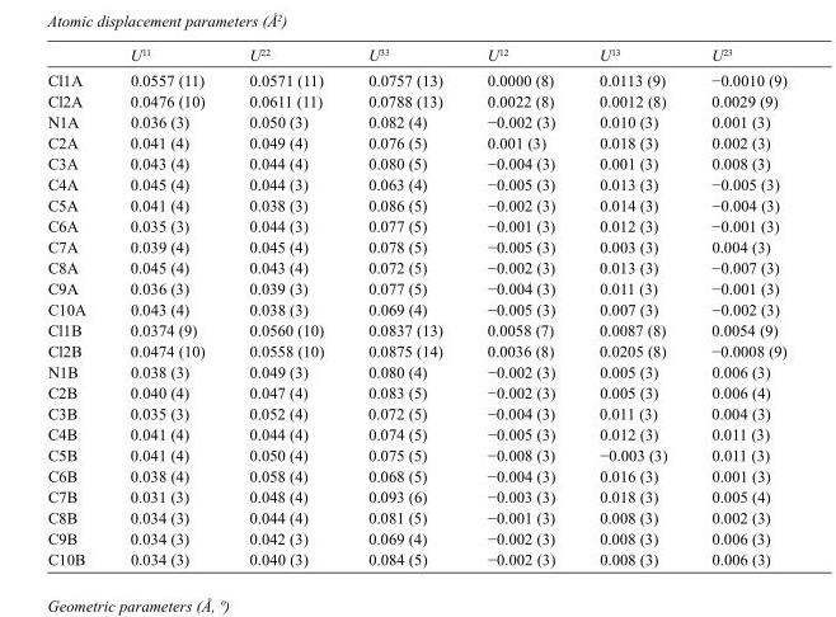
<table><thead><tr><td></td><td>U<sup>11</sup></td><td>U<sup>22</sup></td><td>U<sup>33</sup></td><td>U<sup>12</sup></td><td>U<sup>13</sup></td><td>U<sup>23</sup></td></tr></thead><tbody><tr><td>Cl1A</td><td>0.0557 (11)</td><td>0.0571 (11)</td><td>0.0757 (13)</td><td>0.0000 (8)</td><td>0.0113 (9)</td><td>−0.0010 (9)</td></tr><tr><td>Cl2A</td><td>0.0476 (10)</td><td>0.0611 (11)</td><td>0.0788 (13)</td><td>0.0022 (8)</td><td>0.0012 (8)</td><td>0.0029 (9)</td></tr><tr><td>N1A</td><td>0.036 (3)</td><td>0.050 (3)</td><td>0.082 (4)</td><td>−0.002 (3)</td><td>0.010 (3)</td><td>0.001 (3)</td></tr><tr><td>C2A</td><td>0.041 (4)</td><td>0.049 (4)</td><td>0.076 (5)</td><td>0.001 (3)</td><td>0.018 (3)</td><td>0.002 (3)</td></tr><tr><td>C3A</td><td>0.043 (4)</td><td>0.044 (4)</td><td>0.080 (5)</td><td>−0.004 (3)</td><td>0.001 (3)</td><td>0.008 (3)</td></tr><tr><td>C4A</td><td>0.045 (4)</td><td>0.044 (3)</td><td>0.063 (4)</td><td>−0.005 (3)</td><td>0.013 (3)</td><td>−0.005 (3)</td></tr><tr><td>C5A</td><td>0.041 (4)</td><td>0.038 (3)</td><td>0.086 (5)</td><td>−0.002 (3)</td><td>0.014 (3)</td><td>−0.004 (3)</td></tr><tr><td>C6A</td><td>0.035 (3)</td><td>0.044 (3)</td><td>0.077 (5)</td><td>−0.001 (3)</td><td>0.012 (3)</td><td>−0.001 (3)</td></tr><tr><td>C7A</td><td>0.039 (4)</td><td>0.045 (4)</td><td>0.078 (5)</td><td>−0.005 (3)</td><td>0.003 (3)</td><td>0.004 (3)</td></tr><tr><td>C8A</td><td>0.045 (4)</td><td>0.043 (4)</td><td>0.072 (5)</td><td>−0.002 (3)</td><td>0.013 (3)</td><td>−0.007 (3)</td></tr><tr><td>C9A</td><td>0.036 (3)</td><td>0.039 (3)</td><td>0.077 (5)</td><td>−0.004 (3)</td><td>0.011 (3)</td><td>−0.001 (3)</td></tr><tr><td>C10A</td><td>0.043 (4)</td><td>0.038 (3)</td><td>0.069 (4)</td><td>−0.005 (3)</td><td>0.007 (3)</td><td>−0.002 (3)</td></tr><tr><td>Cl1B</td><td>0.0374 (9)</td><td>0.0560 (10)</td><td>0.0837 (13)</td><td>0.0058 (7)</td><td>0.0087 (8)</td><td>0.0054 (9)</td></tr><tr><td>Cl2B</td><td>0.0474 (10)</td><td>0.0558 (10)</td><td>0.0875 (14)</td><td>0.0036 (8)</td><td>0.0205 (8)</td><td>−0.0008 (9)</td></tr><tr><td>N1B</td><td>0.038 (3)</td><td>0.049 (3)</td><td>0.080 (4)</td><td>−0.002 (3)</td><td>0.005 (3)</td><td>0.006 (3)</td></tr><tr><td>C2B</td><td>0.040 (4)</td><td>0.047 (4)</td><td>0.083 (5)</td><td>−0.002 (3)</td><td>0.005 (3)</td><td>0.006 (4)</td></tr><tr><td>C3B</td><td>0.035 (3)</td><td>0.052 (4)</td><td>0.072 (5)</td><td>−0.004 (3)</td><td>0.011 (3)</td><td>0.004 (3)</td></tr><tr><td>C4B</td><td>0.041 (4)</td><td>0.044 (4)</td><td>0.074 (5)</td><td>−0.005 (3)</td><td>0.012 (3)</td><td>0.011 (3)</td></tr><tr><td>C5B</td><td>0.041 (4)</td><td>0.050 (4)</td><td>0.075 (5)</td><td>−0.008 (3)</td><td>−0.003 (3)</td><td>0.011 (3)</td></tr><tr><td>C6B</td><td>0.038 (4)</td><td>0.058 (4)</td><td>0.068 (5)</td><td>−0.004 (3)</td><td>0.016 (3)</td><td>0.001 (3)</td></tr><tr><td>C7B</td><td>0.031 (3)</td><td>0.048 (4)</td><td>0.093 (6)</td><td>−0.003 (3)</td><td>0.018 (3)</td><td>0.005 (4)</td></tr><tr><td>C8B</td><td>0.034 (3)</td><td>0.044 (4)</td><td>0.081 (5)</td><td>−0.001 (3)</td><td>0.008 (3)</td><td>0.002 (3)</td></tr><tr><td>C9B</td><td>0.034 (3)</td><td>0.042 (3)</td><td>0.069 (4)</td><td>−0.002 (3)</td><td>0.008 (3)</td><td>0.006 (3)</td></tr><tr><td>C10B</td><td>0.034 (3)</td><td>0.040 (3)</td><td>0.084 (5)</td><td>−0.002 (3)</td><td>0.008 (3)</td><td>0.006 (3)</td></tr></tbody></table>